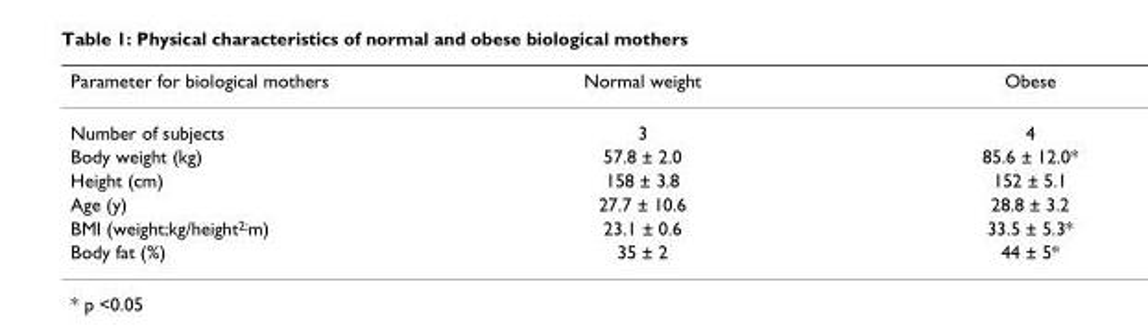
<table><thead><tr><td>Parameter for biological mothers</td><td>Normal weight</td><td>Obese</td></tr></thead><tbody><tr><td>Number of subjects</td><td>3</td><td>4</td></tr><tr><td>Body weight (kg)</td><td>57.8 ± 2.0</td><td>85.6 ± 12.0*</td></tr><tr><td>Height (cm)</td><td>158 ± 3.8</td><td>152 ± 5.1</td></tr><tr><td>Age (y)</td><td>27.7 ± 10.6</td><td>28.8 ± 3.2</td></tr><tr><td>BMI (weight;kg/height<sup>2;</sup>m)</td><td>23.1 ± 0.6</td><td>33.5 ± 5.3*</td></tr><tr><td>Body fat (%)</td><td>35 ± 2</td><td>44 ± 5*</td></tr></tbody></table>